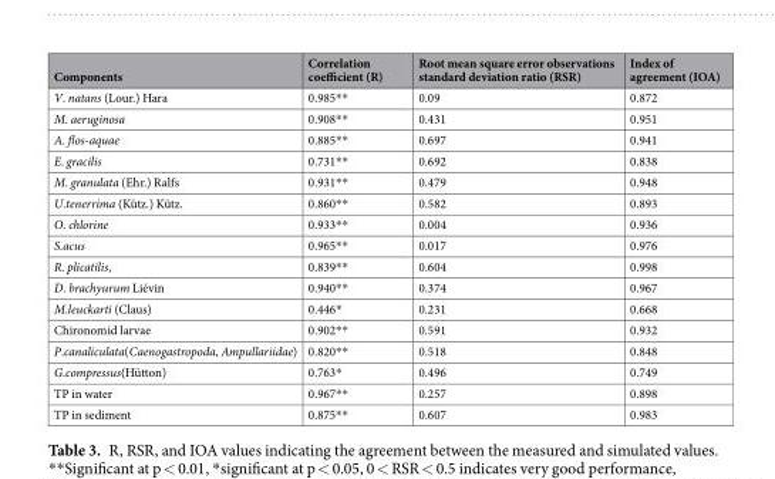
<table><thead><tr><td>Components</td><td>Correlation coefficient (R)</td><td>Root mean square error observations standard deviation ratio (RSR)</td><td>Index of agreement (IOA)</td></tr></thead><tbody><tr><td>V. natans (Lour.) Hara</td><td>0.985**</td><td>0.09</td><td>0.872</td></tr><tr><td>M. aeruginosa</td><td>0.908**</td><td>0.431</td><td>0.951</td></tr><tr><td>A. flos-aquae</td><td>0.885**</td><td>0.697</td><td>0.941</td></tr><tr><td>E. gracilis</td><td>0.731**</td><td>0.692</td><td>0.838</td></tr><tr><td>M. granulata (Ehr.) Ralfs</td><td>0.931**</td><td>0.479</td><td>0.948</td></tr><tr><td>U.tenerrima (Kütz.) Kütz.</td><td>0.860**</td><td>0.582</td><td>0.893</td></tr><tr><td>O. chlorine</td><td>0.933**</td><td>0.004</td><td>0.936</td></tr><tr><td>S.acus</td><td>0.965**</td><td>0.017</td><td>0.976</td></tr><tr><td>R. plicatilis,</td><td>0.839**</td><td>0.604</td><td>0.998</td></tr><tr><td>D. brachyurum Liévin</td><td>0.940**</td><td>0.374</td><td>0.967</td></tr><tr><td>M.leuckarti (Claus)</td><td>0.446*</td><td>0.231</td><td>0.668</td></tr><tr><td>Chironomid larvae</td><td>0.902**</td><td>0.591</td><td>0.932</td></tr><tr><td>P.canaliculata(Caenogastropoda, Ampullariidae)</td><td>0.820**</td><td>0.518</td><td>0.848</td></tr><tr><td>G.compressus(Hütton)</td><td>0.763*</td><td>0.496</td><td>0.749</td></tr><tr><td>TP in water</td><td>0.967**</td><td>0.257</td><td>0.898</td></tr><tr><td>TP in sediment</td><td>0.875**</td><td>0.607</td><td>0.983</td></tr></tbody></table>